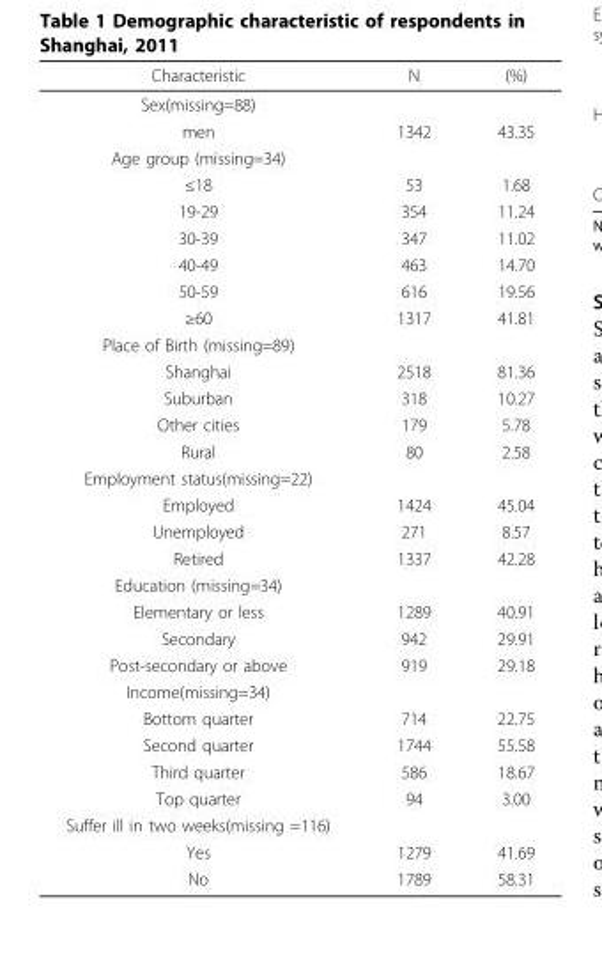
<table><thead><tr><td>Characteristic</td><td>N</td><td>(%)</td></tr></thead><tbody><tr><td colspan="3">Sex(missing=88)</td></tr><tr><td>men</td><td>1342</td><td>43.35</td></tr><tr><td colspan="3">Age group (missing=34)</td></tr><tr><td>≤18</td><td>53</td><td>1.68</td></tr><tr><td>19-29</td><td>354</td><td>11.24</td></tr><tr><td>30-39</td><td>347</td><td>11.02</td></tr><tr><td>40-49</td><td>463</td><td>14.70</td></tr><tr><td>50-59</td><td>616</td><td>19.56</td></tr><tr><td>≥60</td><td>1317</td><td>41.81</td></tr><tr><td colspan="3">Place of Birth (missing=89)</td></tr><tr><td>Shanghai</td><td>2518</td><td>81.36</td></tr><tr><td>Suburban</td><td>318</td><td>10.27</td></tr><tr><td>Other cities</td><td>179</td><td>5.78</td></tr><tr><td>Rural</td><td>80</td><td>2.58</td></tr><tr><td colspan="3">Employment status(missing=22)</td></tr><tr><td>Employed</td><td>1424</td><td>45.04</td></tr><tr><td>Unemployed</td><td>271</td><td>8.57</td></tr><tr><td>Retired</td><td>1337</td><td>42.28</td></tr><tr><td colspan="3">Education (missing=34)</td></tr><tr><td>Elementary or less</td><td>1289</td><td>40.91</td></tr><tr><td>Secondary</td><td>942</td><td>29.91</td></tr><tr><td>Post-secondary or above</td><td>919</td><td>29.18</td></tr><tr><td colspan="3">Income(missing=34)</td></tr><tr><td>Bottom quarter</td><td>714</td><td>22.75</td></tr><tr><td>Second quarter</td><td>1744</td><td>55.58</td></tr><tr><td>Third quarter</td><td>586</td><td>18.67</td></tr><tr><td>Top quarter</td><td>94</td><td>3.00</td></tr><tr><td colspan="3">Suffer ill in two weeks(missing =116)</td></tr><tr><td>Yes</td><td>1279</td><td>41.69</td></tr><tr><td>No</td><td>1789</td><td>58.31</td></tr></tbody></table>